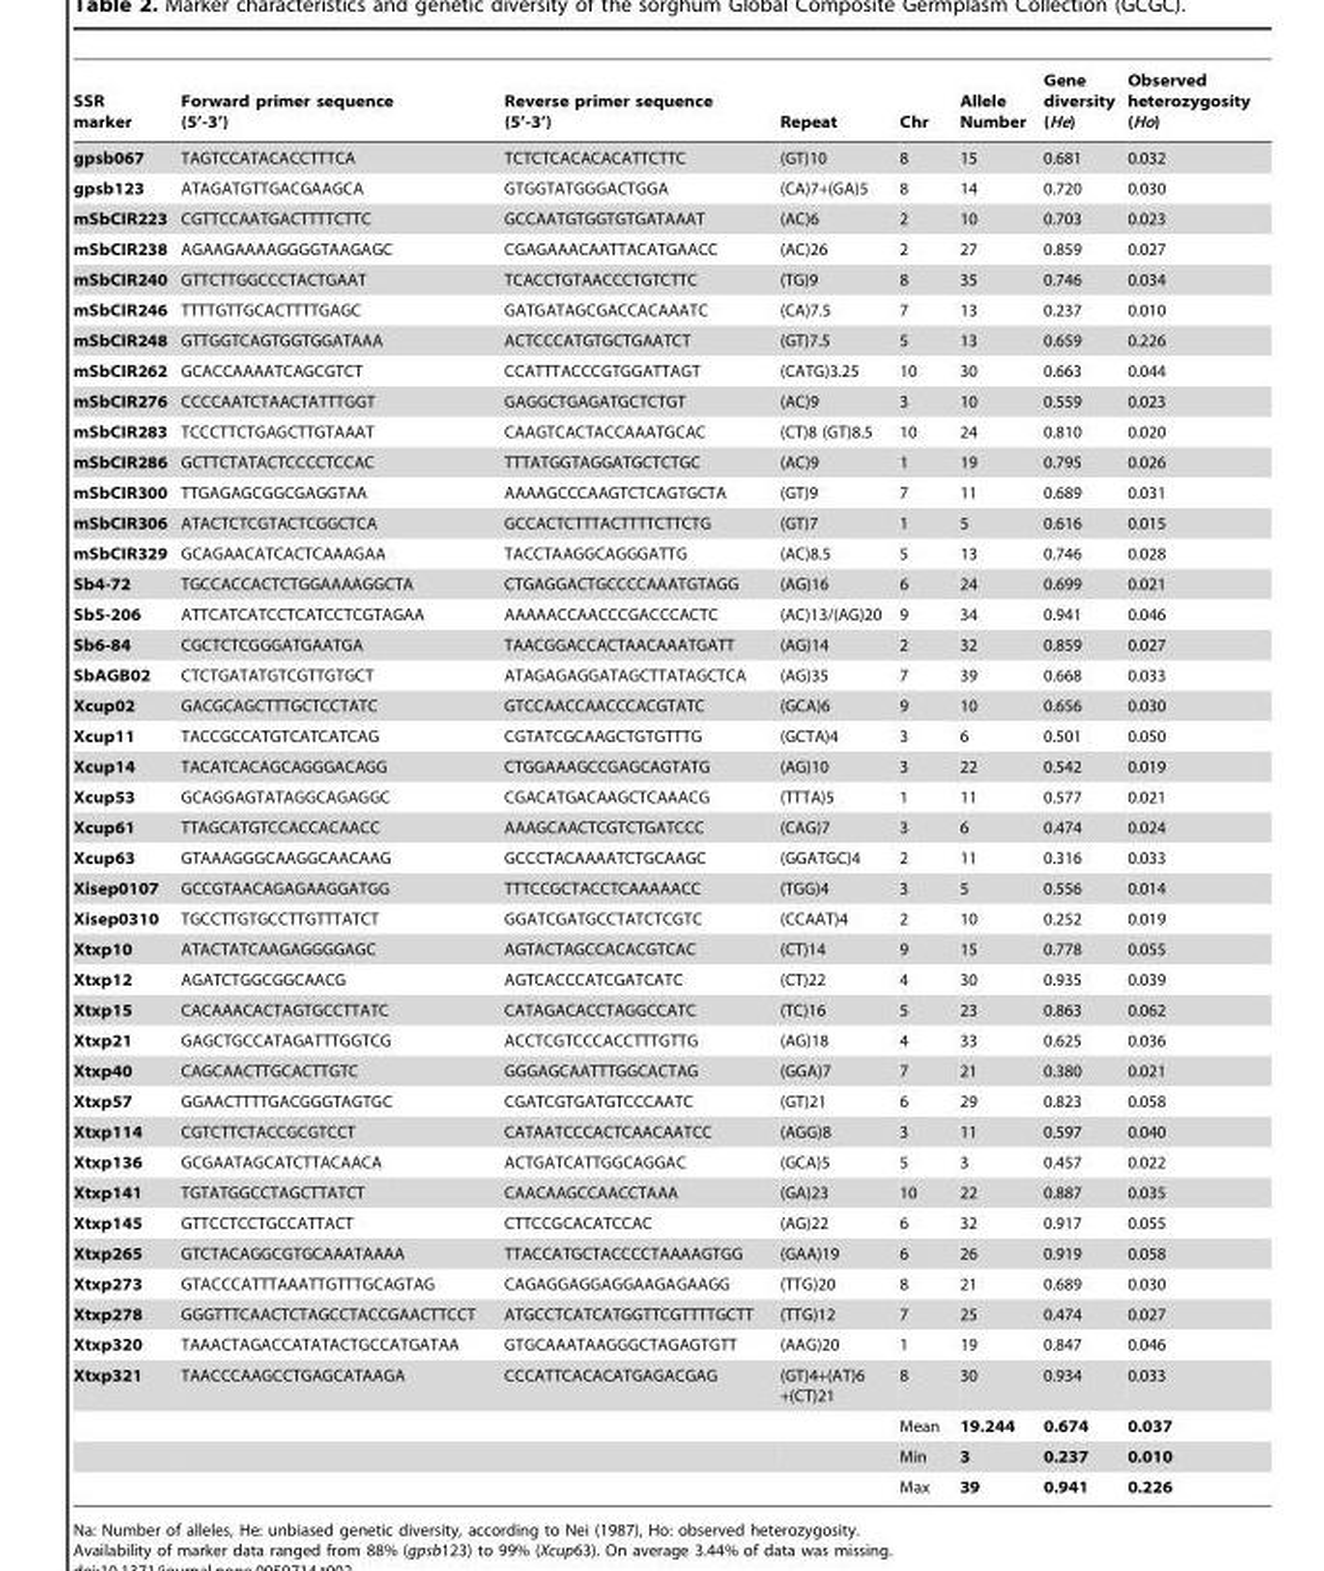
<table><thead><tr><td>SSR marker</td><td>Forward primer sequence (5’-3’)</td><td>Reverse primer sequence (5’-3’)</td><td>Repeat</td><td>Chr</td><td>Allele Number</td><td>Gene diversity (He)</td><td>Observed heterozygosity (Ho)</td></tr></thead><tbody><tr><td>gpsb067</td><td>TAGTCCATACACCTTTCA</td><td>TCTCTCACACACATTCTTC</td><td>(GT)10</td><td>8</td><td>15</td><td>0.681</td><td>0.032</td></tr><tr><td>gpsb123</td><td>ATAGATGTTGACGAAGCA</td><td>GTGGTATGGGACTGGA</td><td>(CA)7+(GA)5</td><td>8</td><td>14</td><td>0.720</td><td>0.030</td></tr><tr><td>mSbCIR223</td><td>CGTTCCAATGACTTTTCTTC</td><td>GCCAATGTGGTGTGATAAAT</td><td>(AC)6</td><td>2</td><td>10</td><td>0.703</td><td>0.023</td></tr><tr><td>mSbCIR238</td><td>AGAAGAAAAGGGGTAAGAGC</td><td>CGAGAAACAATTACATGAACC</td><td>(AC)26</td><td>2</td><td>27</td><td>0.859</td><td>0.027</td></tr><tr><td>mSbCIR240</td><td>GTTCTTGGCCCTACTGAAT</td><td>TCACCTGTAACCCTGTCTTC</td><td>(TG)9</td><td>8</td><td>35</td><td>0.746</td><td>0.034</td></tr><tr><td>mSbCIR246</td><td>TTTTGTTGCACTTTTGAGC</td><td>GATGATAGCGACCACAAATC</td><td>(CA)7.5</td><td>7</td><td>13</td><td>0.237</td><td>0.010</td></tr><tr><td>mSbCIR248</td><td>GTTGGTCAGTGGTGGATAAA</td><td>ACTCCCATGTGCTGAATCT</td><td>(GT)7.5</td><td>5</td><td>13</td><td>0.659</td><td>0.226</td></tr><tr><td>mSbCIR262</td><td>GCACCAAAATCAGCGTCT</td><td>CCATTTACCCGTGGATTAGT</td><td>(CATG)3.25</td><td>10</td><td>30</td><td>0.663</td><td>0.044</td></tr><tr><td>mSbCIR276</td><td>CCCCAATCTAACTATTTGGT</td><td>GAGGCTGAGATGCTCTGT</td><td>(AC)9</td><td>3</td><td>10</td><td>0.559</td><td>0.023</td></tr><tr><td>mSbCIR283</td><td>TCCCTTCTGAGCTTGTAAAT</td><td>CAAGTCACTACCAAATGCAC</td><td>(CT)8 (GT)8.5</td><td>10</td><td>24</td><td>0.810</td><td>0.020</td></tr><tr><td>mSbCIR286</td><td>GCTTCTATACTCCCCTCCAC</td><td>TTTATGGTAGGATGCTCTGC</td><td>(AC)9</td><td>1</td><td>19</td><td>0.795</td><td>0.026</td></tr><tr><td>mSbCIR300</td><td>TTGAGAGCGGCGAGGTAA</td><td>AAAAGCCCAAGTCTCAGTGCTA</td><td>(GT)9</td><td>7</td><td>11</td><td>0.689</td><td>0.031</td></tr><tr><td>mSbCIR306</td><td>ATACTCTCGTACTCGGCTCA</td><td>GCCACTCTTTACTTTTCTTCTG</td><td>(GT)7</td><td>1</td><td>5</td><td>0.616</td><td>0.015</td></tr><tr><td>mSbCIR329</td><td>GCAGAACATCACTCAAAGAA</td><td>TACCTAAGGCAGGGATTG</td><td>(AC)8.5</td><td>5</td><td>13</td><td>0.746</td><td>0.028</td></tr><tr><td>Sb4-72</td><td>TGCCACCACTCTGGAAAAGGCTA</td><td>CTGAGGACTGCCCCAAATGTAGG</td><td>(AG)16</td><td>6</td><td>24</td><td>0.699</td><td>0.021</td></tr><tr><td>Sb5-206</td><td>ATTCATCATCCTCATCCTCGTAGAA</td><td>AAAAACCAACCCGACCCACTC</td><td>(AC)13/(AG)20</td><td>9</td><td>34</td><td>0.941</td><td>0.046</td></tr><tr><td>Sb6-84</td><td>CGCTCTCGGGATGAATGA</td><td>TAACGGACCACTAACAAATGATT</td><td>(AG)14</td><td>2</td><td>32</td><td>0.859</td><td>0.027</td></tr><tr><td>SbAGB02</td><td>CTCTGATATGTCGTTGTGCT</td><td>ATAGAGAGGATAGCTTATAGCTCA</td><td>(AG)35</td><td>7</td><td>39</td><td>0.668</td><td>0.033</td></tr><tr><td>Xcup02</td><td>GACGCAGCTTTGCTCCTATC</td><td>GTCCAACCAACCCACGTATC</td><td>(GCA)6</td><td>9</td><td>10</td><td>0.656</td><td>0.030</td></tr><tr><td>Xcup11</td><td>TACCGCCATGTCATCATCAG</td><td>CGTATCGCAAGCTGTGTTTG</td><td>(GCTA)4</td><td>3</td><td>6</td><td>0.501</td><td>0.050</td></tr><tr><td>Xcup14</td><td>TACATCACAGCAGGGACAGG</td><td>CTGGAAAGCCGAGCAGTATG</td><td>(AG)10</td><td>3</td><td>22</td><td>0.542</td><td>0.019</td></tr><tr><td>Xcup53</td><td>GCAGGAGTATAGGCAGAGGC</td><td>CGACATGACAAGCTCAAACG</td><td>(TTTA)5</td><td>1</td><td>11</td><td>0.577</td><td>0.021</td></tr><tr><td>Xcup61</td><td>TTAGCATGTCCACCACAACC</td><td>AAAGCAACTCGTCTGATCCC</td><td>(CAG)7</td><td>3</td><td>6</td><td>0.474</td><td>0.024</td></tr><tr><td>Xcup63</td><td>GTAAAGGGCAAGGCAACAAG</td><td>GCCCTACAAAATCTGCAAGC</td><td>(GGATGC)4</td><td>2</td><td>11</td><td>0.316</td><td>0.033</td></tr><tr><td>Xisep0107</td><td>GCCGTAACAGAGAAGGATGG</td><td>TTTCCGCTACCTCAAAAACC</td><td>(TGG)4</td><td>3</td><td>5</td><td>0.556</td><td>0.014</td></tr><tr><td>Xisep0310</td><td>TGCCTTGTGCCTTGTTTATCT</td><td>GGATCGATGCCTATCTCGTC</td><td>(CCAAT)4</td><td>2</td><td>10</td><td>0.252</td><td>0.019</td></tr><tr><td>Xtxp10</td><td>ATACTATCAAGAGGGGAGC</td><td>AGTACTAGCCACACGTCAC</td><td>(CT)14</td><td>9</td><td>15</td><td>0.778</td><td>0.055</td></tr><tr><td>Xtxp12</td><td>AGATCTGGCGGCAACG</td><td>AGTCACCCATCGATCATC</td><td>(CT)22</td><td>4</td><td>30</td><td>0.935</td><td>0.039</td></tr><tr><td>Xtxp15</td><td>CACAAACACTAGTGCCTTATC</td><td>CATAGACACCTAGGCCATC</td><td>(TC)16</td><td>5</td><td>23</td><td>0.863</td><td>0.062</td></tr><tr><td>Xtxp21</td><td>GAGCTGCCATAGATTTGGTCG</td><td>ACCTCGTCCCACCTTTGTTG</td><td>(AG)18</td><td>4</td><td>33</td><td>0.625</td><td>0.036</td></tr><tr><td>Xtxp40</td><td>CAGCAACTTGCACTTGTC</td><td>GGGAGCAATTTGGCACTAG</td><td>(GGA)7</td><td>7</td><td>21</td><td>0.380</td><td>0.021</td></tr><tr><td>Xtxp57</td><td>GGAACTTTTGACGGGTAGTGC</td><td>CGATCGTGATGTCCCAATC</td><td>(GT)21</td><td>6</td><td>29</td><td>0.823</td><td>0.058</td></tr><tr><td>Xtxp114</td><td>CGTCTTCTACCGCGTCCT</td><td>CATAATCCCACTCAACAATCC</td><td>(AGG)8</td><td>3</td><td>11</td><td>0.597</td><td>0.040</td></tr><tr><td>Xtxp136</td><td>GCGAATAGCATCTTACAACA</td><td>ACTGATCATTGGCAGGAC</td><td>(GCA)5</td><td>5</td><td>3</td><td>0.457</td><td>0.022</td></tr><tr><td>Xtxp141</td><td>TGTATGGCCTAGCTTATCT</td><td>CAACAAGCCAACCTAAA</td><td>(GA)23</td><td>10</td><td>22</td><td>0.887</td><td>0.035</td></tr><tr><td>Xtxp145</td><td>GTTCCTCCTGCCATTACT</td><td>CTTCCGCACATCCAC</td><td>(AG)22</td><td>6</td><td>32</td><td>0.917</td><td>0.055</td></tr><tr><td>Xtxp265</td><td>GTCTACAGGCGTGCAAATAAAA</td><td>TTACCATGCTACCCCTAAAAGTGG</td><td>(GAA)19</td><td>6</td><td>26</td><td>0.919</td><td>0.058</td></tr><tr><td>Xtxp273</td><td>GTACCCATTTAAATTGTTTGCAGTAG</td><td>CAGAGGAGGAGGAAGAGAAGG</td><td>(TTG)20</td><td>8</td><td>21</td><td>0.689</td><td>0.030</td></tr><tr><td>Xtxp278</td><td>GGGTTTCAACTCTAGCCTACCGAACTTCCT</td><td>ATGCCTCATCATGGTTCGTTTTGCTT</td><td>(TTG)12</td><td>7</td><td>25</td><td>0.474</td><td>0.027</td></tr><tr><td>Xtxp320</td><td>TAAACTAGACCATATACTGCCATGATAA</td><td>GTGCAAATAAGGGCTAGAGTGTT</td><td>(AAG)20</td><td>1</td><td>19</td><td>0.847</td><td>0.046</td></tr><tr><td rowspan="4">Xtxp321</td><td>TAACCCAAGCCTGAGCATAAGA</td><td>CCCATTCACACATGAGACGAG</td><td>(GT)4+(AT)6 +(CT)21</td><td>8</td><td>30</td><td>0.934</td><td>0.033</td></tr><tr><td></td><td></td><td></td><td>Mean</td><td>19.244</td><td>0.674</td><td>0.037</td></tr><tr><td></td><td></td><td></td><td>Min</td><td>3</td><td>0.237</td><td>0.010</td></tr><tr><td></td><td></td><td></td><td>Max</td><td>39</td><td>0.941</td><td>0.226</td></tr></tbody></table>